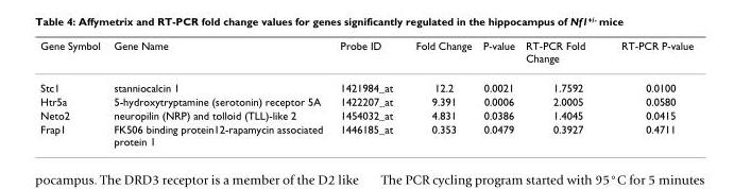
<table><thead><tr><td>Gene Symbol</td><td>Gene Name</td><td>Probe ID</td><td>Fold Change</td><td>P-value</td><td>RT-PCR Fold Change</td><td>RT-PCR P-value</td></tr></thead><tbody><tr><td>Stc1</td><td>stanniocalcin 1</td><td>1421984_at</td><td>12.2</td><td>0.0021</td><td>1.7592</td><td>0.0100</td></tr><tr><td>Htr5a</td><td>5-hydroxytryptamine (serotonin) receptor 5A</td><td>1422207_at</td><td>9.391</td><td>0.0006</td><td>2.0005</td><td>0.0580</td></tr><tr><td>Neto2</td><td>neuropilin (NRP) and tolloid (TLL)-like 2</td><td>1454032_at</td><td>4.831</td><td>0.0386</td><td>1.4045</td><td>0.0415</td></tr><tr><td>Frap1</td><td>FK506 binding protein12-rapamycin associated protein 1</td><td>1446185_at</td><td>0.353</td><td>0.0479</td><td>0.3927</td><td>0.4711</td></tr></tbody></table>